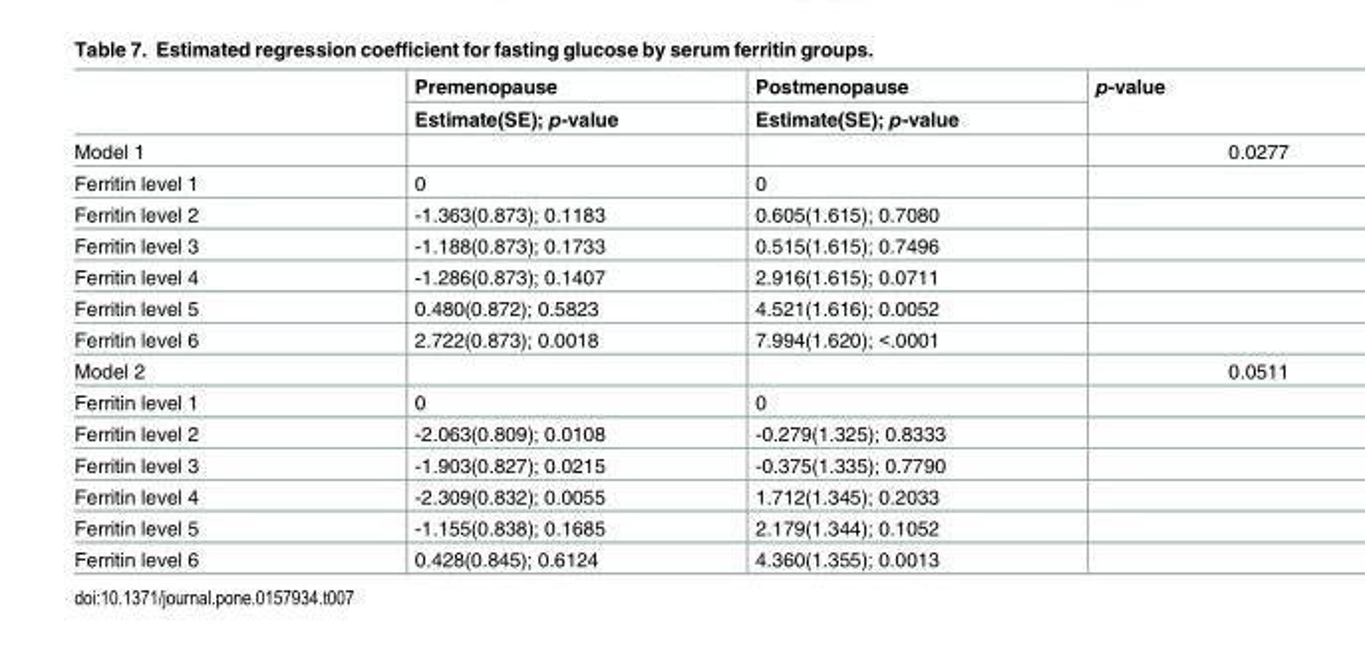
<table><thead><tr><td rowspan="2"></td><td rowspan="2">Premenopause Estimate(SE); p-value</td><td rowspan="2">Postmenopause Estimate(SE); p-value</td><td rowspan="2">p-value</td></tr><tr></tr></thead><tbody><tr><td>Model 1</td><td></td><td></td><td>0.0277</td></tr><tr><td>Ferritin level 1</td><td>0</td><td>0</td><td></td></tr><tr><td>Ferritin level 2</td><td>-1.363(0.873); 0.1183</td><td>0.605(1.615); 0.7080</td><td></td></tr><tr><td>Ferritin level 3</td><td>-1.188(0.873); 0.1733</td><td>0.515(1.615); 0.7496</td><td></td></tr><tr><td>Ferritin level 4</td><td>-1.286(0.873); 0.1407</td><td>2.916(1.615); 0.0711</td><td></td></tr><tr><td>Ferritin level 5</td><td>0.480(0.872); 0.5823</td><td>4.521(1.616); 0.0052</td><td></td></tr><tr><td>Ferritin level 6</td><td>2.722(0.873); 0.0018</td><td>7.994(1.620); &lt;.0001</td><td></td></tr><tr><td>Model 2</td><td></td><td></td><td>0.0511</td></tr><tr><td>Ferritin level 1</td><td>0</td><td>0</td><td></td></tr><tr><td>Ferritin level 2</td><td>-2.063(0.809); 0.0108</td><td>-0.279(1.325); 0.8333</td><td></td></tr><tr><td>Ferritin level 3</td><td>-1.903(0.827); 0.0215</td><td>-0.375(1.335); 0.7790</td><td></td></tr><tr><td>Ferritin level 4</td><td>-2.309(0.832); 0.0055</td><td>1.712(1.345); 0.2033</td><td></td></tr><tr><td>Ferritin level 5</td><td>-1.155(0.838); 0.1685</td><td>2.179(1.344); 0.1052</td><td></td></tr><tr><td>Ferritin level 6</td><td>0.428(0.845); 0.6124</td><td>4.360(1.355); 0.0013</td><td></td></tr></tbody></table>